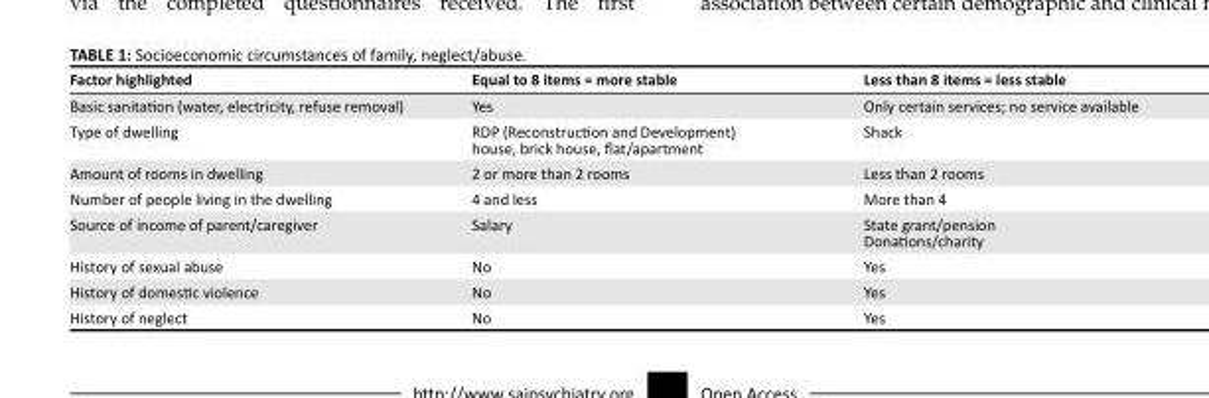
<table><thead><tr><td>Factor highlighted</td><td>Equal to 8 items = more stable</td><td>Less than 8 items = less stable</td></tr></thead><tbody><tr><td>Basic sanitation (water, electricity, refuse removal)</td><td>Yes</td><td>Only certain services; no service available</td></tr><tr><td>Type of dwelling</td><td>RDP (Reconstruction and Development) house, brick house, flat/apartment</td><td>Shack</td></tr><tr><td>Amount of rooms in dwelling</td><td>2 or more than 2 rooms</td><td>Less than 2 rooms</td></tr><tr><td>Number of people living in the dwelling</td><td>4 and less</td><td>More than 4</td></tr><tr><td>Source of income of parent/caregiver</td><td>Salary</td><td>State grant/pension Donations/charity</td></tr><tr><td>History of sexual abuse</td><td>No</td><td>Yes</td></tr><tr><td>History of domestic violence</td><td>No</td><td>Yes</td></tr><tr><td>History of neglect</td><td>No</td><td>Yes</td></tr></tbody></table>